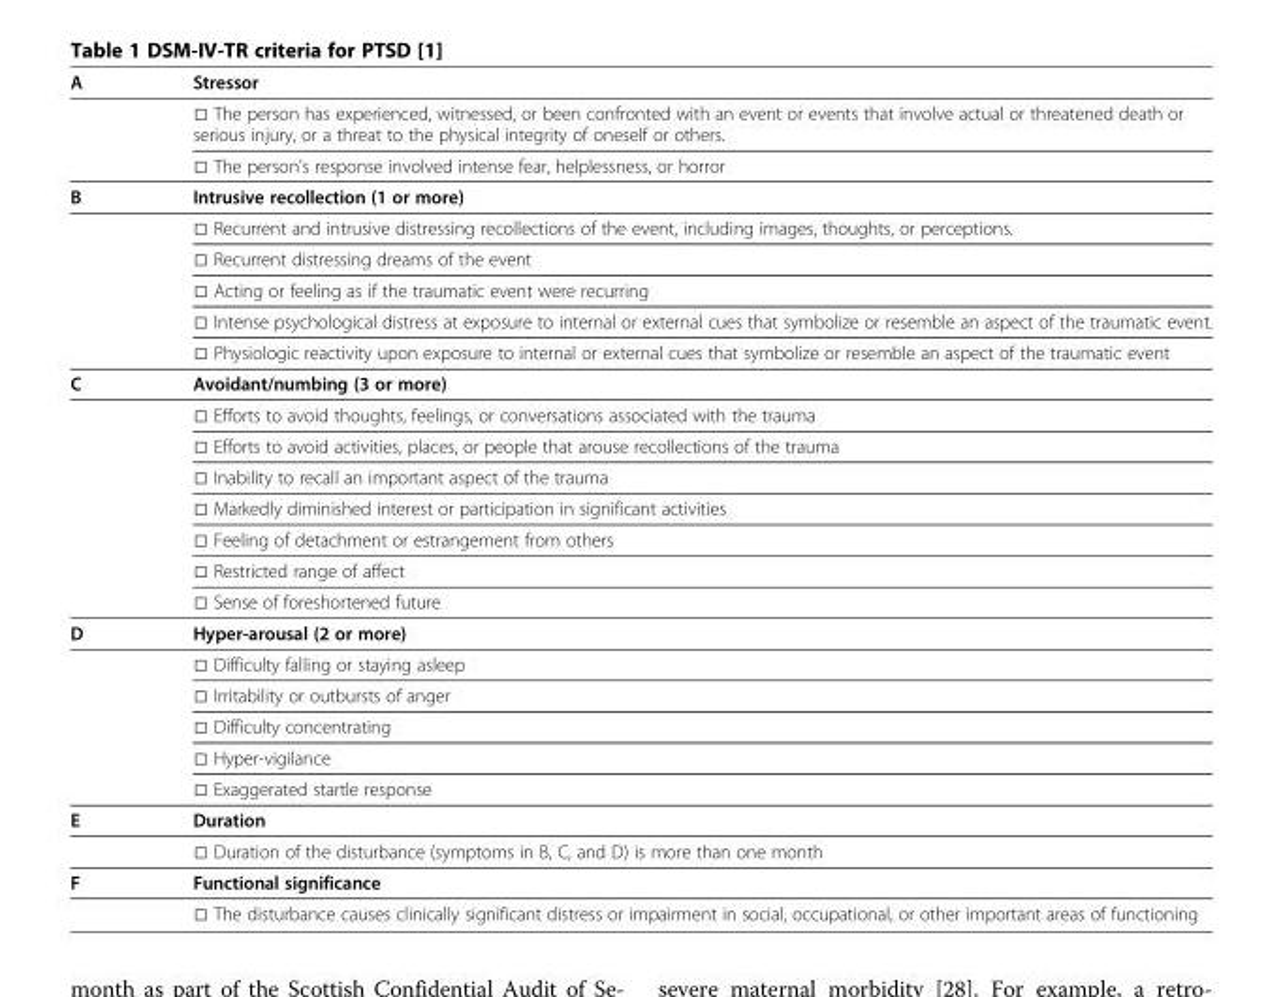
<table><tbody><tr><td rowspan="3">A</td><td>Stressor</td></tr><tr><td>□ The person has experienced, witnessed, or been confronted with an event or events that involve actual or threatened death or serious injury, or a threat to the physical integrity of oneself or others.</td></tr><tr><td>□ The person&#x27;s response involved intense fear, helplessness, or horror</td></tr><tr><td rowspan="6">B</td><td>Intrusive recollection (1 or more)</td></tr><tr><td>□ Recurrent and intrusive distressing recollections of the event, including images, thoughts, or perceptions.</td></tr><tr><td>□ Recurrent distressing dreams of the event</td></tr><tr><td>□ Acting or feeling as if the traumatic event were recurring</td></tr><tr><td>□ Intense psychological distress at exposure to internal or external cues that symbolize or resemble an aspect of the traumatic event.</td></tr><tr><td>□ Physiologic reactivity upon exposure to internal or external cues that symbolize or resemble an aspect of the traumatic event</td></tr><tr><td rowspan="8">C</td><td>Avoidant/numbing (3 or more)</td></tr><tr><td>□ Efforts to avoid thoughts, feelings, or conversations associated with the trauma</td></tr><tr><td>□ Efforts to avoid activities, places, or people that arouse recollections of the trauma</td></tr><tr><td>□ Inability to recall an important aspect of the trauma</td></tr><tr><td>□ Markedly diminished interest or participation in significant activities</td></tr><tr><td>□ Feeling of detachment or estrangement from others</td></tr><tr><td>□ Restricted range of affect</td></tr><tr><td>□ Sense of foreshortened future</td></tr><tr><td rowspan="6">D</td><td>Hyper-arousal (2 or more)</td></tr><tr><td>□ Difficulty falling or staying asleep</td></tr><tr><td>□ Irritability or outbursts of anger</td></tr><tr><td>□ Difficulty concentrating</td></tr><tr><td>□ Hyper-vigilance</td></tr><tr><td>□ Exaggerated startle response</td></tr><tr><td rowspan="2">E</td><td>Duration</td></tr><tr><td>□ Duration of the disturbance (symptoms in B, C, and D) is more than one month</td></tr><tr><td rowspan="2">F</td><td>Functional significance</td></tr><tr><td>□ The disturbance causes clinically significant distress or impairment in social, occupational, or other important areas of functioning</td></tr></tbody></table>